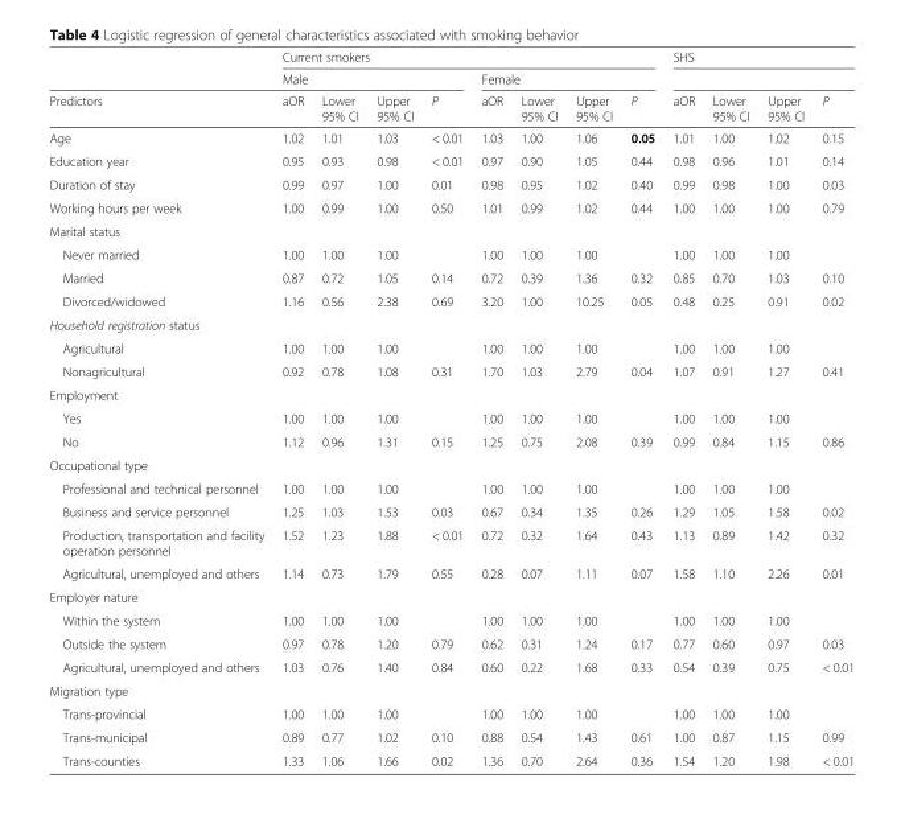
<table><thead><tr><td rowspan="3">Predictors</td><td colspan="8">Current smokers</td><td colspan="4">SHS</td></tr><tr><td colspan="4">Male</td><td colspan="4">Female</td><td rowspan="2">aOR</td><td rowspan="2">Lower 95% CI</td><td rowspan="2">Upper 95% CI</td><td rowspan="2">P</td></tr><tr><td>aOR</td><td>Lower 95% CI</td><td>Upper 95% CI</td><td>P</td><td>aOR</td><td>Lower 95% CI</td><td>Upper 95% CI</td><td>P</td></tr></thead><tbody><tr><td>Age</td><td>1.02</td><td>1.01</td><td>1.03</td><td>&lt; 0.01</td><td>1.03</td><td>1.00</td><td>1.06</td><td>0.05</td><td>1.01</td><td>1.00</td><td>1.02</td><td>0.15</td></tr><tr><td>Education year</td><td>0.95</td><td>0.93</td><td>0.98</td><td>&lt; 0.01</td><td>0.97</td><td>0.90</td><td>1.05</td><td>0.44</td><td>0.98</td><td>0.96</td><td>1.01</td><td>0.14</td></tr><tr><td>Duration of stay</td><td>0.99</td><td>0.97</td><td>1.00</td><td>0.01</td><td>0.98</td><td>0.95</td><td>1.02</td><td>0.40</td><td>0.99</td><td>0.98</td><td>1.00</td><td>0.03</td></tr><tr><td>Working hours per week</td><td>1.00</td><td>0.99</td><td>1.00</td><td>0.50</td><td>1.01</td><td>0.99</td><td>1.02</td><td>0.44</td><td>1.00</td><td>1.00</td><td>1.00</td><td>0.79</td></tr><tr><td colspan="13">Marital status</td></tr><tr><td>Never married</td><td>1.00</td><td>1.00</td><td>1.00</td><td></td><td>1.00</td><td>1.00</td><td>1.00</td><td></td><td>1.00</td><td>1.00</td><td>1.00</td><td></td></tr><tr><td>Married</td><td>0.87</td><td>0.72</td><td>1.05</td><td>0.14</td><td>0.72</td><td>0.39</td><td>1.36</td><td>0.32</td><td>0.85</td><td>0.70</td><td>1.03</td><td>0.10</td></tr><tr><td>Divorced/widowed</td><td>1.16</td><td>0.56</td><td>2.38</td><td>0.69</td><td>3.20</td><td>1.00</td><td>10.25</td><td>0.05</td><td>0.48</td><td>0.25</td><td>0.91</td><td>0.02</td></tr><tr><td colspan="13">Household registration status</td></tr><tr><td>Agricultural</td><td>1.00</td><td>1.00</td><td>1.00</td><td></td><td>1.00</td><td>1.00</td><td>1.00</td><td></td><td>1.00</td><td>1.00</td><td>1.00</td><td></td></tr><tr><td>Nonagricultural</td><td>0.92</td><td>0.78</td><td>1.08</td><td>0.31</td><td>1.70</td><td>1.03</td><td>2.79</td><td>0.04</td><td>1.07</td><td>0.91</td><td>1.27</td><td>0.41</td></tr><tr><td colspan="13">Employment</td></tr><tr><td>Yes</td><td>1.00</td><td>1.00</td><td>1.00</td><td></td><td>1.00</td><td>1.00</td><td>1.00</td><td></td><td>1.00</td><td>1.00</td><td>1.00</td><td></td></tr><tr><td>No</td><td>1.12</td><td>0.96</td><td>1.31</td><td>0.15</td><td>1.25</td><td>0.75</td><td>2.08</td><td>0.39</td><td>0.99</td><td>0.84</td><td>1.15</td><td>0.86</td></tr><tr><td colspan="13">Occupational type</td></tr><tr><td>Professional and technical personnel</td><td>1.00</td><td>1.00</td><td>1.00</td><td></td><td>1.00</td><td>1.00</td><td>1.00</td><td></td><td>1.00</td><td>1.00</td><td>1.00</td><td></td></tr><tr><td>Business and service personnel</td><td>1.25</td><td>1.03</td><td>1.53</td><td>0.03</td><td>0.67</td><td>0.34</td><td>1.35</td><td>0.26</td><td>1.29</td><td>1.05</td><td>1.58</td><td>0.02</td></tr><tr><td>Production, transportation and facility operation personnel</td><td>1.52</td><td>1.23</td><td>1.88</td><td>&lt; 0.01</td><td>0.72</td><td>0.32</td><td>1.64</td><td>0.43</td><td>1.13</td><td>0.89</td><td>1.42</td><td>0.32</td></tr><tr><td>Agricultural, unemployed and others</td><td>1.14</td><td>0.73</td><td>1.79</td><td>0.55</td><td>0.28</td><td>0.07</td><td>1.11</td><td>0.07</td><td>1.58</td><td>1.10</td><td>2.26</td><td>0.01</td></tr><tr><td colspan="13">Employer nature</td></tr><tr><td>Within the system</td><td>1.00</td><td>1.00</td><td>1.00</td><td></td><td>1.00</td><td>1.00</td><td>1.00</td><td></td><td>1.00</td><td>1.00</td><td>1.00</td><td></td></tr><tr><td>Outside the system</td><td>0.97</td><td>0.78</td><td>1.20</td><td>0.79</td><td>0.62</td><td>0.31</td><td>1.24</td><td>0.17</td><td>0.77</td><td>0.60</td><td>0.97</td><td>0.03</td></tr><tr><td>Agricultural, unemployed and others</td><td>1.03</td><td>0.76</td><td>1.40</td><td>0.84</td><td>0.60</td><td>0.22</td><td>1.68</td><td>0.33</td><td>0.54</td><td>0.39</td><td>0.75</td><td>&lt; 0.01</td></tr><tr><td colspan="13">Migration type</td></tr><tr><td>Trans-provincial</td><td>1.00</td><td>1.00</td><td>1.00</td><td></td><td>1.00</td><td>1.00</td><td>1.00</td><td></td><td>1.00</td><td>1.00</td><td>1.00</td><td></td></tr><tr><td>Trans-municipal</td><td>0.89</td><td>0.77</td><td>1.02</td><td>0.10</td><td>0.88</td><td>0.54</td><td>1.43</td><td>0.61</td><td>1.00</td><td>0.87</td><td>1.15</td><td>0.99</td></tr><tr><td>Trans-counties</td><td>1.33</td><td>1.06</td><td>1.66</td><td>0.02</td><td>1.36</td><td>0.70</td><td>2.64</td><td>0.36</td><td>1.54</td><td>1.20</td><td>1.98</td><td>&lt; 0.01</td></tr></tbody></table>